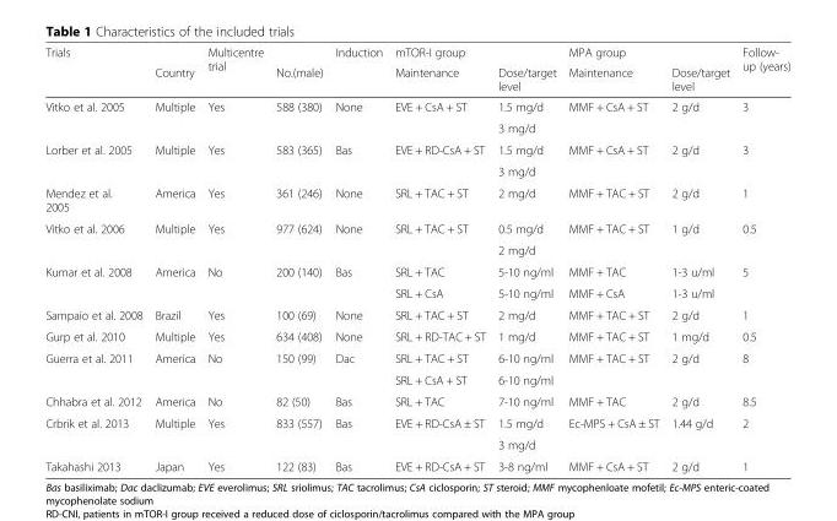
<table><thead><tr><td rowspan="2">Trials</td><td rowspan="2">Country</td><td rowspan="2">Multicentre trial</td><td rowspan="2">No.(male)</td><td rowspan="2">Induction</td><td colspan="2">mTOR-I group</td><td colspan="2">MPA group</td><td rowspan="2">Follow- up (years)</td></tr><tr><td>Maintenance</td><td>Dose/target level</td><td>Maintenance</td><td>Dose/target level</td></tr></thead><tbody><tr><td rowspan="2">Vitko et al. 2005</td><td rowspan="2">Multiple</td><td rowspan="2">Yes</td><td rowspan="2">588 (380)</td><td rowspan="2">None</td><td rowspan="2">EVE + CsA + ST</td><td>1.5 mg/d</td><td rowspan="2">MMF + CsA + ST</td><td rowspan="2">2 g/d</td><td rowspan="2">3</td></tr><tr><td>3 mg/d</td></tr><tr><td rowspan="2">Lorber et al. 2005</td><td rowspan="2">Multiple</td><td rowspan="2">Yes</td><td rowspan="2">583 (365)</td><td rowspan="2">Bas</td><td rowspan="2">EVE + RD-CsA + ST</td><td>1.5 mg/d</td><td rowspan="2">MMF + CsA + ST</td><td rowspan="2">2 g/d</td><td rowspan="2">3</td></tr><tr><td>3 mg/d</td></tr><tr><td>Mendez et al. 2005</td><td>America</td><td>Yes</td><td>361 (246)</td><td>None</td><td>SRL + TAC + ST</td><td>2 mg/d</td><td>MMF + TAC + ST</td><td>2 g/d</td><td>1</td></tr><tr><td rowspan="2">Vitko et al. 2006</td><td rowspan="2">Multiple</td><td rowspan="2">Yes</td><td rowspan="2">977 (624)</td><td rowspan="2">None</td><td rowspan="2">SRL + TAC + ST</td><td>0.5 mg/d</td><td rowspan="2">MMF + TAC + ST</td><td rowspan="2">1 g/d</td><td rowspan="2">0.5</td></tr><tr><td>2 mg/d</td></tr><tr><td rowspan="2">Kumar et al. 2008</td><td rowspan="2">America</td><td rowspan="2">No</td><td rowspan="2">200 (140)</td><td rowspan="2">Bas</td><td>SRL + TAC</td><td>5-10 ng/ml</td><td>MMF + TAC</td><td>1-3 u/ml</td><td rowspan="2">5</td></tr><tr><td>SRL + CsA</td><td>5-10 ng/ml</td><td>MMF + CsA</td><td>1-3 u/ml</td></tr><tr><td>Sampaio et al. 2008</td><td>Brazil</td><td>Yes</td><td>100 (69)</td><td>None</td><td>SRL + TAC + ST</td><td>2 mg/d</td><td>MMF + TAC + ST</td><td>2 g/d</td><td>1</td></tr><tr><td>Gurp et al. 2010</td><td>Multiple</td><td>Yes</td><td>634 (408)</td><td>None</td><td>SRL + RD-TAC + ST</td><td>1 mg/d</td><td>MMF + TAC + ST</td><td>1 mg/d</td><td>0.5</td></tr><tr><td rowspan="2">Guerra et al. 2011</td><td rowspan="2">America</td><td rowspan="2">No</td><td rowspan="2">150 (99)</td><td rowspan="2">Dac</td><td>SRL + TAC + ST</td><td>6-10 ng/ml</td><td rowspan="2">MMF + TAC + ST</td><td rowspan="2">2 g/d</td><td rowspan="2">8</td></tr><tr><td>SRL + CsA + ST</td><td>6-10 ng/ml</td></tr><tr><td>Chhabra et al. 2012</td><td>America</td><td>No</td><td>82 (50)</td><td>Bas</td><td>SRL + TAC</td><td>7-10 ng/ml</td><td>MMF + TAC</td><td>2 g/d</td><td>8.5</td></tr><tr><td rowspan="2">Crbrik et al. 2013</td><td rowspan="2">Multiple</td><td rowspan="2">Yes</td><td rowspan="2">833 (557)</td><td rowspan="2">Bas</td><td rowspan="2">EVE + RD-CsA ± ST</td><td>1.5 mg/d</td><td rowspan="2">Ec-MPS + CsA ± ST</td><td rowspan="2">1.44 g/d</td><td rowspan="2">2</td></tr><tr><td>3 mg/d</td></tr><tr><td>Takahashi 2013</td><td>Japan</td><td>Yes</td><td>122 (83)</td><td>Bas</td><td>EVE + RD-CsA + ST</td><td>3-8 ng/ml</td><td>MMF + CsA + ST</td><td>2 g/d</td><td>1</td></tr></tbody></table>